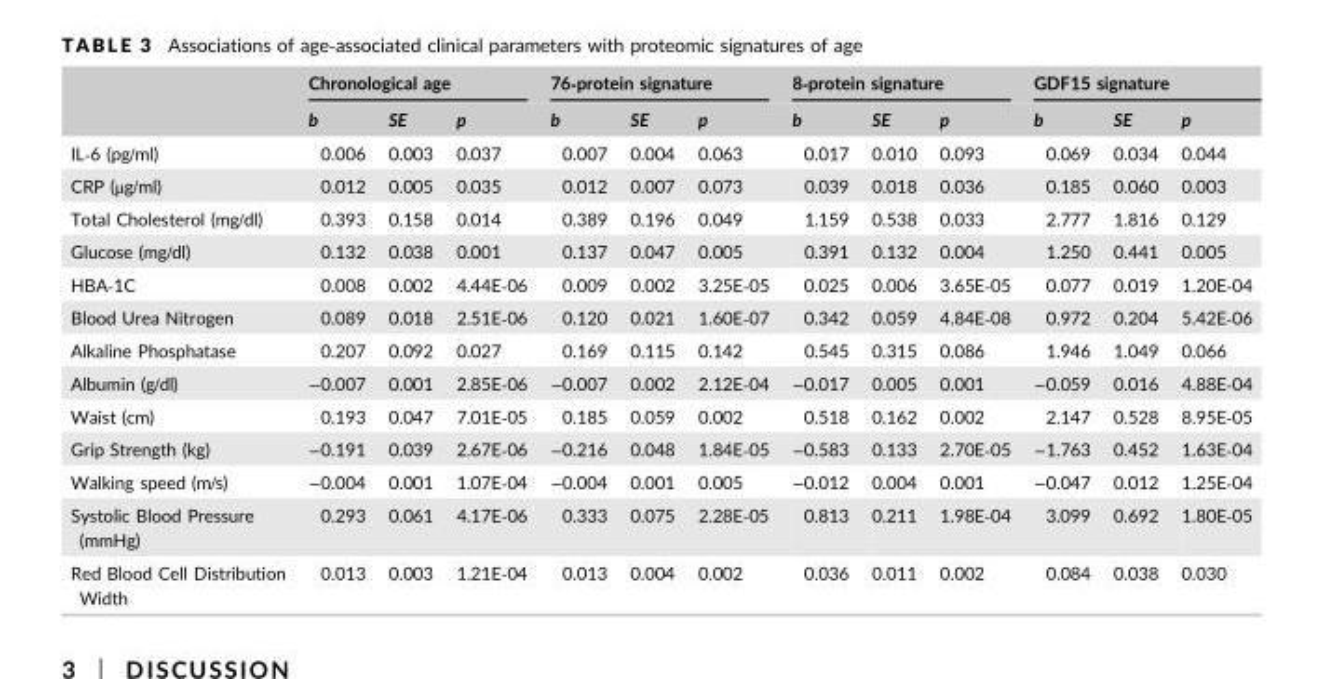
<table><thead><tr><td rowspan="2"></td><td colspan="3">Chronological age</td><td colspan="3">76‐protein signature</td><td colspan="3">8‐protein signature</td><td colspan="3">GDF15 signature</td></tr><tr><td>b</td><td>SE</td><td>p</td><td>b</td><td>SE</td><td>p</td><td>b</td><td>SE</td><td>p</td><td>b</td><td>SE</td><td>p</td></tr></thead><tbody><tr><td>IL‐6 (pg/ml)</td><td>0.006</td><td>0.003</td><td>0.037</td><td>0.007</td><td>0.004</td><td>0.063</td><td>0.017</td><td>0.010</td><td>0.093</td><td>0.069</td><td>0.034</td><td>0.044</td></tr><tr><td>CRP (μg/ml)</td><td>0.012</td><td>0.005</td><td>0.035</td><td>0.012</td><td>0.007</td><td>0.073</td><td>0.039</td><td>0.018</td><td>0.036</td><td>0.185</td><td>0.060</td><td>0.003</td></tr><tr><td>Total Cholesterol (mg/dl)</td><td>0.393</td><td>0.158</td><td>0.014</td><td>0.389</td><td>0.196</td><td>0.049</td><td>1.159</td><td>0.538</td><td>0.033</td><td>2.777</td><td>1.816</td><td>0.129</td></tr><tr><td>Glucose (mg/dl)</td><td>0.132</td><td>0.038</td><td>0.001</td><td>0.137</td><td>0.047</td><td>0.005</td><td>0.391</td><td>0.132</td><td>0.004</td><td>1.250</td><td>0.441</td><td>0.005</td></tr><tr><td>HBA‐1C</td><td>0.008</td><td>0.002</td><td>4.44E‐06</td><td>0.009</td><td>0.002</td><td>3.25E‐05</td><td>0.025</td><td>0.006</td><td>3.65E‐05</td><td>0.077</td><td>0.019</td><td>1.20E‐04</td></tr><tr><td>Blood Urea Nitrogen</td><td>0.089</td><td>0.018</td><td>2.51E‐06</td><td>0.120</td><td>0.021</td><td>1.60E‐07</td><td>0.342</td><td>0.059</td><td>4.84E‐08</td><td>0.972</td><td>0.204</td><td>5.42E‐06</td></tr><tr><td>Alkaline Phosphatase</td><td>0.207</td><td>0.092</td><td>0.027</td><td>0.169</td><td>0.115</td><td>0.142</td><td>0.545</td><td>0.315</td><td>0.086</td><td>1.946</td><td>1.049</td><td>0.066</td></tr><tr><td>Albumin (g/dl)</td><td>−0.007</td><td>0.001</td><td>2.85E‐06</td><td>−0.007</td><td>0.002</td><td>2.12E‐04</td><td>−0.017</td><td>0.005</td><td>0.001</td><td>−0.059</td><td>0.016</td><td>4.88E‐04</td></tr><tr><td>Waist (cm)</td><td>0.193</td><td>0.047</td><td>7.01E‐05</td><td>0.185</td><td>0.059</td><td>0.002</td><td>0.518</td><td>0.162</td><td>0.002</td><td>2.147</td><td>0.528</td><td>8.95E‐05</td></tr><tr><td>Grip Strength (kg)</td><td>−0.191</td><td>0.039</td><td>2.67E‐06</td><td>−0.216</td><td>0.048</td><td>1.84E‐05</td><td>−0.583</td><td>0.133</td><td>2.70E‐05</td><td>−1.763</td><td>0.452</td><td>1.63E‐04</td></tr><tr><td>Walking speed (m/s)</td><td>−0.004</td><td>0.001</td><td>1.07E‐04</td><td>−0.004</td><td>0.001</td><td>0.005</td><td>−0.012</td><td>0.004</td><td>0.001</td><td>−0.047</td><td>0.012</td><td>1.25E‐04</td></tr><tr><td>Systolic Blood Pressure (mmHg)</td><td>0.293</td><td>0.061</td><td>4.17E‐06</td><td>0.333</td><td>0.075</td><td>2.28E‐05</td><td>0.813</td><td>0.211</td><td>1.98E‐04</td><td>3.099</td><td>0.692</td><td>1.80E‐05</td></tr><tr><td>Red Blood Cell Distribution Width</td><td>0.013</td><td>0.003</td><td>1.21E‐04</td><td>0.013</td><td>0.004</td><td>0.002</td><td>0.036</td><td>0.011</td><td>0.002</td><td>0.084</td><td>0.038</td><td>0.030</td></tr></tbody></table>